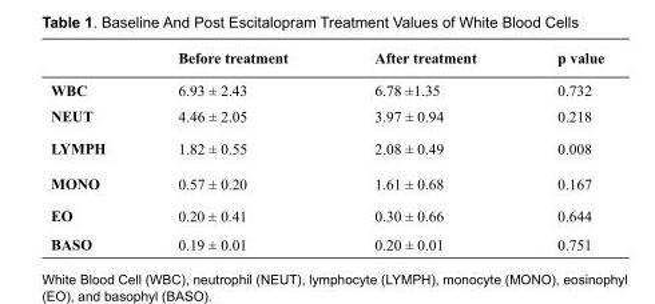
<table><thead><tr><td></td><td>Before treatment</td><td>After treatment</td><td>p value</td></tr></thead><tbody><tr><td>WBC</td><td>6.93 ± 2.43</td><td>6.78 ±1.35</td><td>0.732</td></tr><tr><td>NEUT</td><td>4.46 ± 2.05</td><td>3.97 ± 0.94</td><td>0.218</td></tr><tr><td>LYMPH</td><td>1.82 ± 0.55</td><td>2.08 ± 0.49</td><td>0.008</td></tr><tr><td>MONO</td><td>0.57 ± 0.20</td><td>1.61 ± 0.68</td><td>0.167</td></tr><tr><td>EO</td><td>0.20 ± 0.41</td><td>0.30 ± 0.66</td><td>0.644</td></tr><tr><td>BASO</td><td>0.19 ± 0.01</td><td>0.20 ± 0.01</td><td>0.751</td></tr></tbody></table>